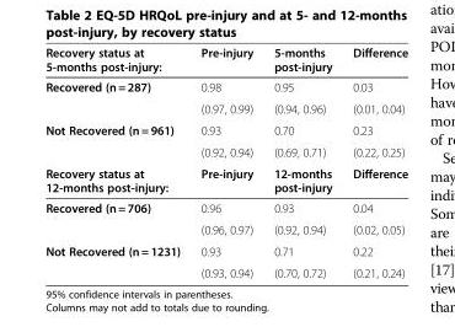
<table><thead><tr><td>Recovery status at 5-months post-injury:</td><td>Pre-injury</td><td>5-months post-injury</td><td>Difference</td></tr></thead><tbody><tr><td rowspan="2">Recovered (n = 287)</td><td>0.98</td><td>0.95</td><td>0.03</td></tr><tr><td>(0.97, 0.99)</td><td>(0.94, 0.96)</td><td>(0.01, 0.04)</td></tr><tr><td rowspan="2">Not Recovered (n = 961)</td><td>0.93</td><td>0.70</td><td>0.23</td></tr><tr><td>(0.92, 0.94)</td><td>(0.69, 0.71)</td><td>(0.22, 0.25)</td></tr><tr><td>Recovery status at 12-months post-injury:</td><td>Pre-injury</td><td>12-months post-injury</td><td>Difference</td></tr><tr><td rowspan="2">Recovered (n = 706)</td><td>0.96</td><td>0.93</td><td>0.04</td></tr><tr><td>(0.96, 0.97)</td><td>(0.92, 0.94)</td><td>(0.02, 0.05)</td></tr><tr><td rowspan="2">Not Recovered (n = 1231)</td><td>0.93</td><td>0.71</td><td>0.22</td></tr><tr><td>(0.93, 0.94)</td><td>(0.70, 0.72)</td><td>(0.21, 0.24)</td></tr></tbody></table>